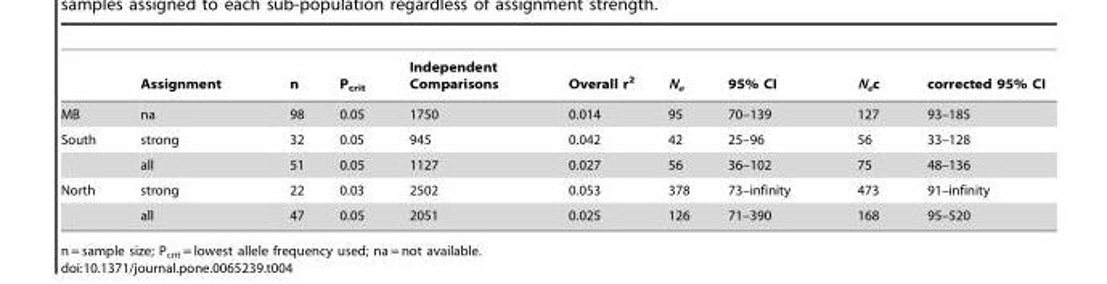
<table><thead><tr><td></td><td>Assignment</td><td>n</td><td>P<sub>crit</sub></td><td>Independent Comparisons</td><td>Overall r<sup>2</sup></td><td>N<sub>e</sub></td><td>95% CI</td><td>N<sub>e</sub>c</td><td>corrected 95% CI</td></tr></thead><tbody><tr><td>MB</td><td>na</td><td>98</td><td>0.05</td><td>1750</td><td>0.014</td><td>95</td><td>70–139</td><td>127</td><td>93–185</td></tr><tr><td rowspan="2">South</td><td>strong</td><td>32</td><td>0.05</td><td>945</td><td>0.042</td><td>42</td><td>25–96</td><td>56</td><td>33–128</td></tr><tr><td>all</td><td>51</td><td>0.05</td><td>1127</td><td>0.027</td><td>56</td><td>36–102</td><td>75</td><td>48–136</td></tr><tr><td rowspan="2">North</td><td>strong</td><td>22</td><td>0.03</td><td>2502</td><td>0.053</td><td>378</td><td>73–infinity</td><td>473</td><td>91–infinity</td></tr><tr><td>all</td><td>47</td><td>0.05</td><td>2051</td><td>0.025</td><td>126</td><td>71–390</td><td>168</td><td>95–520</td></tr></tbody></table>